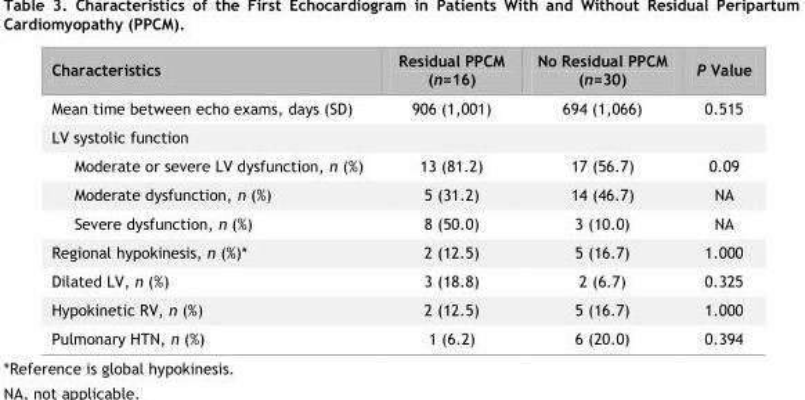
<table><thead><tr><td>Characteristics</td><td>Residual PPCM (n=16)</td><td>No Residual PPCM (n=30)</td><td>P Value</td></tr></thead><tbody><tr><td>Mean time between echo exams, days (SD)</td><td>906 (1,001)</td><td>694 (1,066)</td><td>0.515</td></tr><tr><td colspan="4">LV systolic function</td></tr><tr><td>Moderate or severe LV dysfunction, n (%)</td><td>13 (81.2)</td><td>17 (56.7)</td><td>0.09</td></tr><tr><td>Moderate dysfunction, n (%)</td><td>5 (31.2)</td><td>14 (46.7)</td><td>NA</td></tr><tr><td>Severe dysfunction, n (%)</td><td>8 (50.0)</td><td>3 (10.0)</td><td>NA</td></tr><tr><td>Regional hypokinesis, n (%)*</td><td>2 (12.5)</td><td>5 (16.7)</td><td>1.000</td></tr><tr><td>Dilated LV, n (%)</td><td>3 (18.8)</td><td>2 (6.7)</td><td>0.325</td></tr><tr><td>Hypokinetic RV, n (%)</td><td>2 (12.5)</td><td>5 (16.7)</td><td>1.000</td></tr><tr><td>Pulmonary HTN, n (%)</td><td>1 (6.2)</td><td>6 (20.0)</td><td>0.394</td></tr></tbody></table>